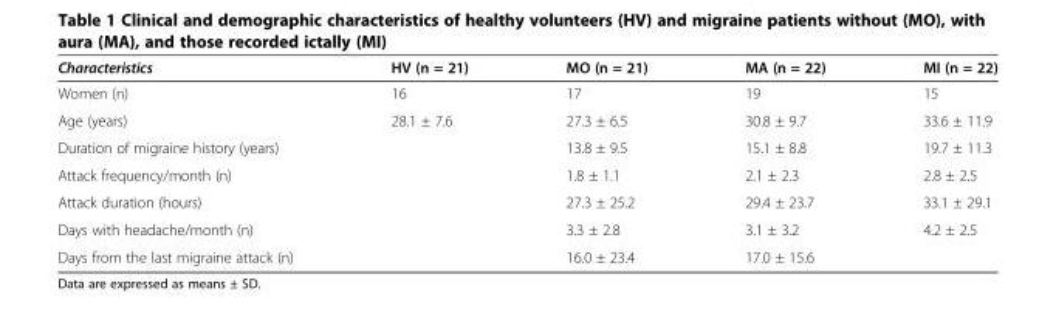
<table><thead><tr><td>Characteristics</td><td>HV (n = 21)</td><td>MO (n = 21)</td><td>MA (n = 22)</td><td>MI (n = 22)</td></tr></thead><tbody><tr><td>Women (n)</td><td>16</td><td>17</td><td>19</td><td>15</td></tr><tr><td>Age (years)</td><td>28.1 ± 7.6</td><td>27.3 ± 6.5</td><td>30.8 ± 9.7</td><td>33.6 ± 11.9</td></tr><tr><td>Duration of migraine history (years)</td><td></td><td>13.8 ± 9.5</td><td>15.1 ± 8.8</td><td>19.7 ± 11.3</td></tr><tr><td>Attack frequency/month (n)</td><td></td><td>1.8 ± 1.1</td><td>2.1 ± 2.3</td><td>2.8 ± 2.5</td></tr><tr><td>Attack duration (hours)</td><td></td><td>27.3 ± 25.2</td><td>29.4 ± 23.7</td><td>33.1 ± 29.1</td></tr><tr><td>Days with headache/month (n)</td><td></td><td>3.3 ± 2.8</td><td>3.1 ± 3.2</td><td>4.2 ± 2.5</td></tr><tr><td>Days from the last migraine attack (n)</td><td></td><td>16.0 ± 23.4</td><td>17.0 ± 15.6</td><td></td></tr></tbody></table>